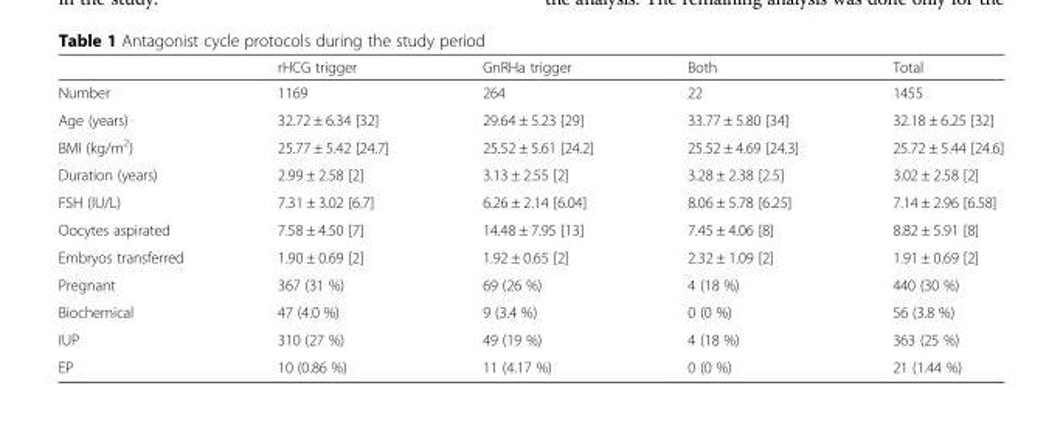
<table><thead><tr><td></td><td>rHCG trigger</td><td>GnRHa trigger</td><td>Both</td><td>Total</td></tr></thead><tbody><tr><td>Number</td><td>1169</td><td>264</td><td>22</td><td>1455</td></tr><tr><td>Age (years)</td><td>32.72 ± 6.34 [32]</td><td>29.64 ± 5.23 [29]</td><td>33.77 ± 5.80 [34]</td><td>32.18 ± 6.25 [32]</td></tr><tr><td>BMI (kg/m<sup>2</sup>)</td><td>25.77 ± 5.42 [24.7]</td><td>25.52 ± 5.61 [24.2]</td><td>25.52 ± 4.69 [24.3]</td><td>25.72 ± 5.44 [24.6]</td></tr><tr><td>Duration (years)</td><td>2.99 ± 2.58 [2]</td><td>3.13 ± 2.55 [2]</td><td>3.28 ± 2.38 [2.5]</td><td>3.02 ± 2.58 [2]</td></tr><tr><td>FSH (IU/L)</td><td>7.31 ± 3.02 [6.7]</td><td>6.26 ± 2.14 [6.04]</td><td>8.06 ± 5.78 [6.25]</td><td>7.14 ± 2.96 [6.58]</td></tr><tr><td>Oocytes aspirated</td><td>7.58 ± 4.50 [7]</td><td>14.48 ± 7.95 [13]</td><td>7.45 ± 4.06 [8]</td><td>8.82 ± 5.91 [8]</td></tr><tr><td>Embryos transferred</td><td>1.90 ± 0.69 [2]</td><td>1.92 ± 0.65 [2]</td><td>2.32 ± 1.09 [2]</td><td>1.91 ± 0.69 [2]</td></tr><tr><td>Pregnant</td><td>367 (31 %)</td><td>69 (26 %)</td><td>4 (18 %)</td><td>440 (30 %)</td></tr><tr><td>Biochemical</td><td>47 (4.0 %)</td><td>9 (3.4 %)</td><td>0 (0 %)</td><td>56 (3.8 %)</td></tr><tr><td>IUP</td><td>310 (27 %)</td><td>49 (19 %)</td><td>4 (18 %)</td><td>363 (25 %)</td></tr><tr><td>EP</td><td>10 (0.86 %)</td><td>11 (4.17 %)</td><td>0 (0 %)</td><td>21 (1.44 %)</td></tr></tbody></table>